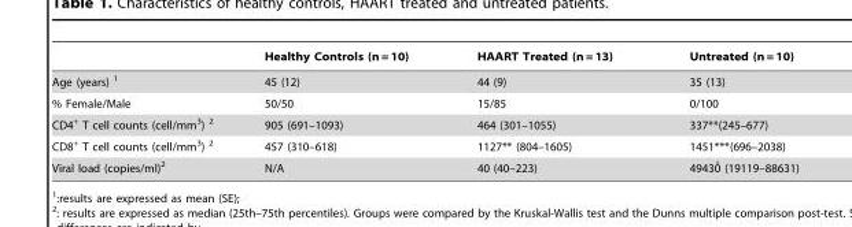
<table><thead><tr><td></td><td>Healthy Controls (n = 10)</td><td>HAART Treated (n = 13)</td><td>Untreated (n = 10)</td></tr></thead><tbody><tr><td>Age (years) 1</td><td>45 (12)</td><td>44 (9)</td><td>35 (13)</td></tr><tr><td>% Female/Male</td><td>50/50</td><td>15/85</td><td>0/100</td></tr><tr><td>CD4<sup>+</sup> T cell counts (cell/mm<sup>3</sup>) 2</td><td>905 (691–1093)</td><td>464 (301–1055)</td><td>337**(245–677)</td></tr><tr><td>CD8<sup>+</sup> T cell counts (cell/mm<sup>3</sup>) 2</td><td>457 (310–618)</td><td>1127** (804–1605)</td><td>1451***(696–2038)</td></tr><tr><td>Viral load (copies/ml)<sup>2</sup></td><td>N/A</td><td>40 (40–223)</td><td>49430ˆ (19119–88631)</td></tr></tbody></table>